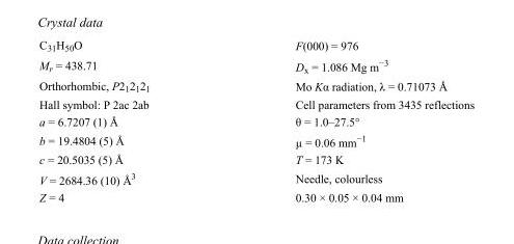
<table><tbody><tr><td>C<sub>31</sub>H<sub>50</sub>O</td><td>F(000) = 976</td></tr><tr><td>M<sub>r</sub> = 438.71</td><td>D<sub>x</sub> = 1.086 Mg m<sup>−3</sup></td></tr><tr><td>Orthorhombic, P2<sub>1</sub>2<sub>1</sub>2<sub>1</sub></td><td>Mo Kα radiation, λ = 0.71073 Å</td></tr><tr><td>Hall symbol: P 2ac 2ab</td><td>Cell parameters from 3435 reflections</td></tr><tr><td>a = 6.7207 (1) Å</td><td>θ = 1.0–27.5°</td></tr><tr><td>b = 19.4804 (5) Å</td><td>µ = 0.06 mm<sup>−1</sup></td></tr><tr><td>c = 20.5035 (5) Å</td><td>T = 173 K</td></tr><tr><td>V = 2684.36 (10) Å<sup>3</sup></td><td>Needle, colourless</td></tr><tr><td>Z = 4</td><td>0.30 × 0.05 × 0.04 mm</td></tr></tbody></table>